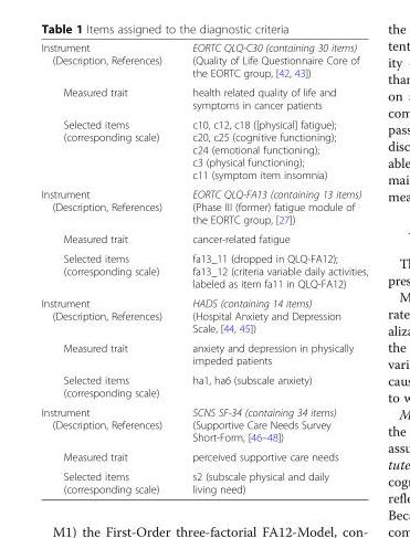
<table><tbody><tr><td>Instrument (Description, References)</td><td>EORTC QLQ-C30 (containing 30 items) (Quality of Life Questionnaire Core of the EORTC group, [42, 43])</td></tr><tr><td>Measured trait</td><td>health related quality of life and symptoms in cancer patients</td></tr><tr><td>Selected items (corresponding scale)</td><td>c10, c12, c18 ([physical] fatigue); c20, c25 (cognitive functioning); c24 (emotional functioning); c3 (physical functioning); c11 (symptom item insomnia)</td></tr><tr><td>Instrument (Description, References)</td><td>EORTC QLQ-FA13 (containing 13 items) (Phase III (former) fatigue module of the EORTC group, [27])</td></tr><tr><td>Measured trait</td><td>cancer-related fatigue</td></tr><tr><td>Selected items (corresponding scale)</td><td>fa13_11 (dropped in QLQ-FA12); fa13_12 (criteria variable daily activities, labeled as item fa11 in QLQ-FA12)</td></tr><tr><td>Instrument (Description, References)</td><td>HADS (containing 14 items) (Hospital Anxiety and Depression Scale, [44, 45])</td></tr><tr><td>Measured trait</td><td>anxiety and depression in physically impeded patients</td></tr><tr><td>Selected items (corresponding scale)</td><td>ha1, ha6 (subscale anxiety)</td></tr><tr><td>Instrument (Description, References)</td><td>SCNS SF-34 (containing 34 items) (Supportive Care Needs Survey Short-Form, [46–48])</td></tr><tr><td>Measured trait</td><td>perceived supportive care needs</td></tr><tr><td>Selected items (corresponding scale)</td><td>s2 (subscale physical and daily living need)</td></tr></tbody></table>